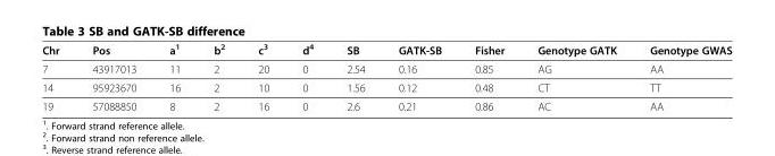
<table><thead><tr><td>Chr</td><td>Pos</td><td>a<sup>1</sup></td><td>b<sup>2</sup></td><td>c<sup>3</sup></td><td>d<sup>4</sup></td><td>SB</td><td>GATK-SB</td><td>Fisher</td><td>Genotype GATK</td><td>Genotype GWAS</td></tr></thead><tbody><tr><td>7</td><td>43917013</td><td>11</td><td>2</td><td>20</td><td>0</td><td>2.54</td><td>0.16</td><td>0.85</td><td>AG</td><td>AA</td></tr><tr><td>14</td><td>95923670</td><td>16</td><td>2</td><td>10</td><td>0</td><td>1.56</td><td>0.12</td><td>0.48</td><td>CT</td><td>TT</td></tr><tr><td>19</td><td>57088850</td><td>8</td><td>2</td><td>16</td><td>0</td><td>2.6</td><td>0.21</td><td>0.86</td><td>AC</td><td>AA</td></tr></tbody></table>